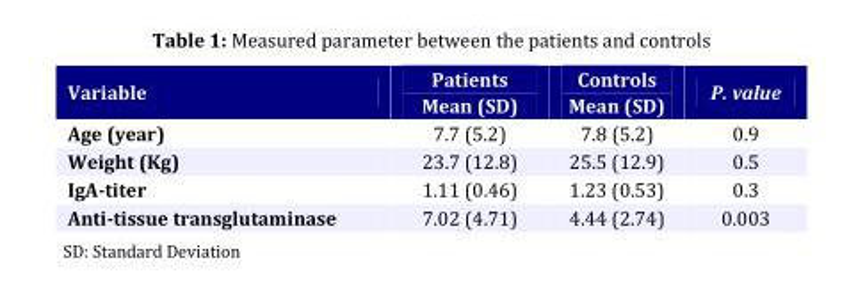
<table><thead><tr><td>Variable</td><td>Patients Mean (SD)</td><td>Controls Mean (SD)</td><td>P. value</td></tr></thead><tbody><tr><td>Age (year)</td><td>7.7 (5.2)</td><td>7.8 (5.2)</td><td>0.9</td></tr><tr><td>Weight (Kg)</td><td>23.7 (12.8)</td><td>25.5 (12.9)</td><td>0.5</td></tr><tr><td>IgA-titer</td><td>1.11 (0.46)</td><td>1.23 (0.53)</td><td>0.3</td></tr><tr><td>Anti-tissue transglutaminase</td><td>7.02 (4.71)</td><td>4.44 (2.74)</td><td>0.003</td></tr></tbody></table>